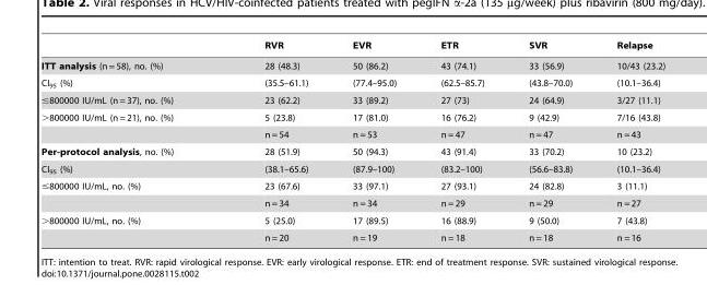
<table><thead><tr><td></td><td>RVR</td><td>EVR</td><td>ETR</td><td>SVR</td><td>Relapse</td></tr></thead><tbody><tr><td>ITT analysis (n = 58), no. (%)</td><td>28 (48.3)</td><td>50 (86.2)</td><td>43 (74.1)</td><td>33 (56.9)</td><td>10/43 (23.2)</td></tr><tr><td>CI<sub>95</sub> (%)</td><td>(35.5–61.1)</td><td>(77.4–95.0)</td><td>(62.5–85.7)</td><td>(43.8–70.0)</td><td>(10.1–36.4)</td></tr><tr><td>≤800000 IU/mL (n = 37), no. (%)</td><td>23 (62.2)</td><td>33 (89.2)</td><td>27 (73)</td><td>24 (64.9)</td><td>3/27 (11.1)</td></tr><tr><td rowspan="2">&gt;800000 IU/mL (n = 21), no. (%)</td><td>5 (23.8)</td><td>17 (81.0)</td><td>16 (76.2)</td><td>9 (42.9)</td><td>7/16 (43.8)</td></tr><tr><td>n = 54</td><td>n = 53</td><td>n = 47</td><td>n = 47</td><td>n = 43</td></tr><tr><td>Per-protocol analysis, no. (%)</td><td>28 (51.9)</td><td>50 (94.3)</td><td>43 (91.4)</td><td>33 (70.2)</td><td>10 (23.2)</td></tr><tr><td>CI<sub>95</sub> (%)</td><td>(38.1–65.6)</td><td>(87.9–100)</td><td>(83.2–100)</td><td>(56.6–83.8)</td><td>(10.1–36.4)</td></tr><tr><td rowspan="2">≤800000 IU/mL, no. (%)</td><td>23 (67.6)</td><td>33 (97.1)</td><td>27 (93.1)</td><td>24 (82.8)</td><td>3 (11.1)</td></tr><tr><td>n = 34</td><td>n = 34</td><td>n = 29</td><td>n = 29</td><td>n = 27</td></tr><tr><td rowspan="2">&gt;800000 IU/mL, no. (%)</td><td>5 (25.0)</td><td>17 (89.5)</td><td>16 (88.9)</td><td>9 (50.0)</td><td>7 (43.8)</td></tr><tr><td>n = 20</td><td>n = 19</td><td>n = 18</td><td>n = 18</td><td>n = 16</td></tr></tbody></table>